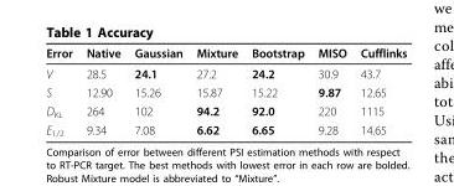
<table><thead><tr><td>Error</td><td>Native</td><td>Gaussian</td><td>Mixture</td><td>Bootstrap</td><td>MISO</td><td>Cufflinks</td></tr></thead><tbody><tr><td>V</td><td>28.5</td><td>24.1</td><td>27.2</td><td>24.2</td><td>30.9</td><td>43.7</td></tr><tr><td>S</td><td>12.90</td><td>15.26</td><td>15.87</td><td>15.22</td><td>9.87</td><td>12.65</td></tr><tr><td>D<sub>KL</sub></td><td>264</td><td>102</td><td>94.2</td><td>92.0</td><td>220</td><td>1115</td></tr><tr><td>E<sub>1/2</sub></td><td>9.34</td><td>7.08</td><td>6.62</td><td>6.65</td><td>9.28</td><td>14.65</td></tr></tbody></table>